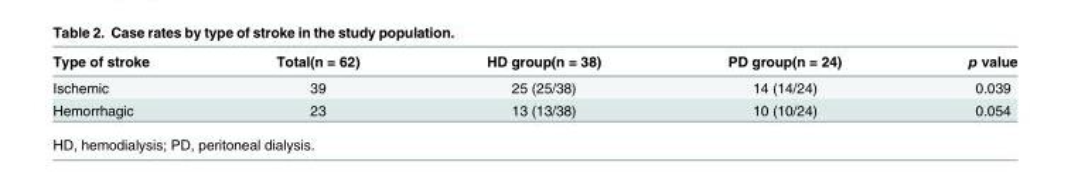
<table><thead><tr><td>Type of stroke</td><td>Total(n = 62)</td><td>HD group(n = 38)</td><td>PD group(n = 24)</td><td>p value</td></tr></thead><tbody><tr><td>Ischemic</td><td>39</td><td>25 (25/38)</td><td>14 (14/24)</td><td>0.039</td></tr><tr><td>Hemorrhagic</td><td>23</td><td>13 (13/38)</td><td>10 (10/24)</td><td>0.054</td></tr></tbody></table>